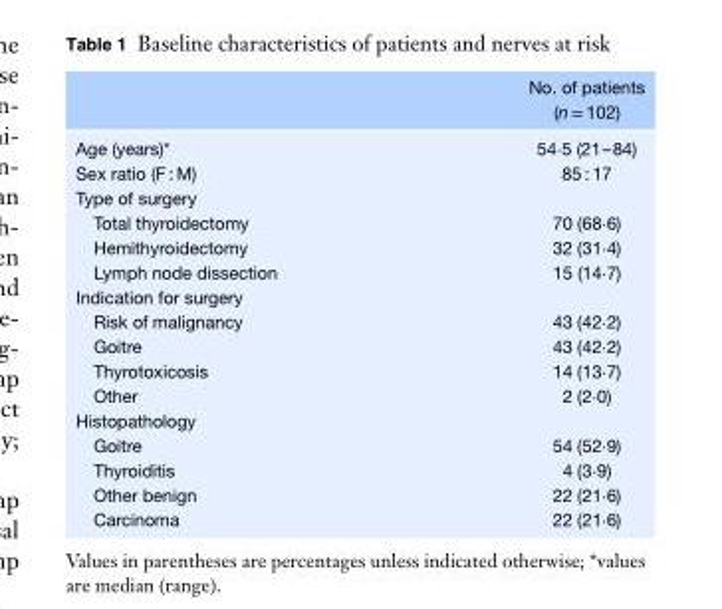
<table><thead><tr><td></td><td>No. of patients (n = 102)</td></tr></thead><tbody><tr><td>Age (years)*</td><td>54⋅5 (21–84)</td></tr><tr><td>Sex ratio (F : M)</td><td>85 : 17</td></tr><tr><td colspan="2">Type of surgery</td></tr><tr><td>Total thyroidectomy</td><td>70 (68⋅6)</td></tr><tr><td>Hemithyroidectomy</td><td>32 (31⋅4)</td></tr><tr><td>Lymph node dissection</td><td>15 (14⋅7)</td></tr><tr><td colspan="2">Indication for surgery</td></tr><tr><td>Risk of malignancy</td><td>43 (42⋅2)</td></tr><tr><td>Goitre</td><td>43 (42⋅2)</td></tr><tr><td>Thyrotoxicosis</td><td>14 (13⋅7)</td></tr><tr><td>Other</td><td>2 (2⋅0)</td></tr><tr><td colspan="2">Histopathology</td></tr><tr><td>Goitre</td><td>54 (52⋅9)</td></tr><tr><td>Thyroiditis</td><td>4 (3⋅9)</td></tr><tr><td>Other benign</td><td>22 (21⋅6)</td></tr><tr><td>Carcinoma</td><td>22 (21⋅6)</td></tr></tbody></table>